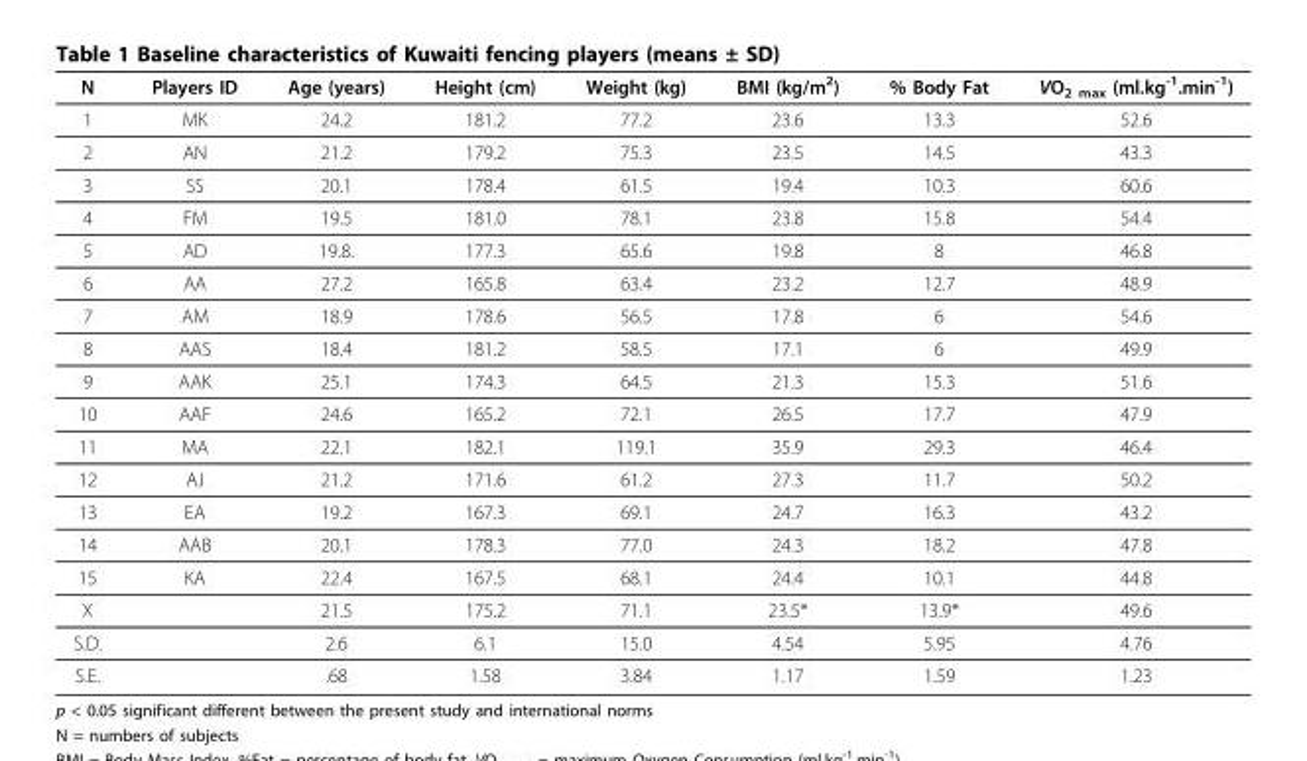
<table><thead><tr><td>N</td><td>Players ID</td><td>Age (years)</td><td>Height (cm)</td><td>Weight (kg)</td><td>BMI (kg/m<sup>2</sup>)</td><td>% Body Fat</td><td>VO<sub>2 max</sub> (ml.kg<sup>-1</sup>.min<sup>-1</sup>)</td></tr></thead><tbody><tr><td>1</td><td>MK</td><td>24.2</td><td>181.2</td><td>77.2</td><td>23.6</td><td>13.3</td><td>52.6</td></tr><tr><td>2</td><td>AN</td><td>21.2</td><td>179.2</td><td>75.3</td><td>23.5</td><td>14.5</td><td>43.3</td></tr><tr><td>3</td><td>SS</td><td>20.1</td><td>178.4</td><td>61.5</td><td>19.4</td><td>10.3</td><td>60.6</td></tr><tr><td>4</td><td>FM</td><td>19.5</td><td>181.0</td><td>78.1</td><td>23.8</td><td>15.8</td><td>54.4</td></tr><tr><td>5</td><td>AD</td><td>19.8.</td><td>177.3</td><td>65.6</td><td>19.8</td><td>8</td><td>46.8</td></tr><tr><td>6</td><td>AA</td><td>27.2</td><td>165.8</td><td>63.4</td><td>23.2</td><td>12.7</td><td>48.9</td></tr><tr><td>7</td><td>AM</td><td>18.9</td><td>178.6</td><td>56.5</td><td>17.8</td><td>6</td><td>54.6</td></tr><tr><td>8</td><td>AAS</td><td>18.4</td><td>181.2</td><td>58.5</td><td>17.1</td><td>6</td><td>49.9</td></tr><tr><td>9</td><td>AAK</td><td>25.1</td><td>174.3</td><td>64.5</td><td>21.3</td><td>15.3</td><td>51.6</td></tr><tr><td>10</td><td>AAF</td><td>24.6</td><td>165.2</td><td>72.1</td><td>26.5</td><td>17.7</td><td>47.9</td></tr><tr><td>11</td><td>MA</td><td>22.1</td><td>182.1</td><td>119.1</td><td>35.9</td><td>29.3</td><td>46.4</td></tr><tr><td>12</td><td>AJ</td><td>21.2</td><td>171.6</td><td>61.2</td><td>27.3</td><td>11.7</td><td>50.2</td></tr><tr><td>13</td><td>EA</td><td>19.2</td><td>167.3</td><td>69.1</td><td>24.7</td><td>16.3</td><td>43.2</td></tr><tr><td>14</td><td>AAB</td><td>20.1</td><td>178.3</td><td>77.0</td><td>24.3</td><td>18.2</td><td>47.8</td></tr><tr><td>15</td><td>KA</td><td>22.4</td><td>167.5</td><td>68.1</td><td>24.4</td><td>10.1</td><td>44.8</td></tr><tr><td>Χ</td><td></td><td>21.5</td><td>175.2</td><td>71.1</td><td>23.5*</td><td>13.9*</td><td>49.6</td></tr><tr><td>S.D.</td><td></td><td>2.6</td><td>6.1</td><td>15.0</td><td>4.54</td><td>5.95</td><td>4.76</td></tr><tr><td>S.E.</td><td></td><td>.68</td><td>1.58</td><td>3.84</td><td>1.17</td><td>1.59</td><td>1.23</td></tr></tbody></table>